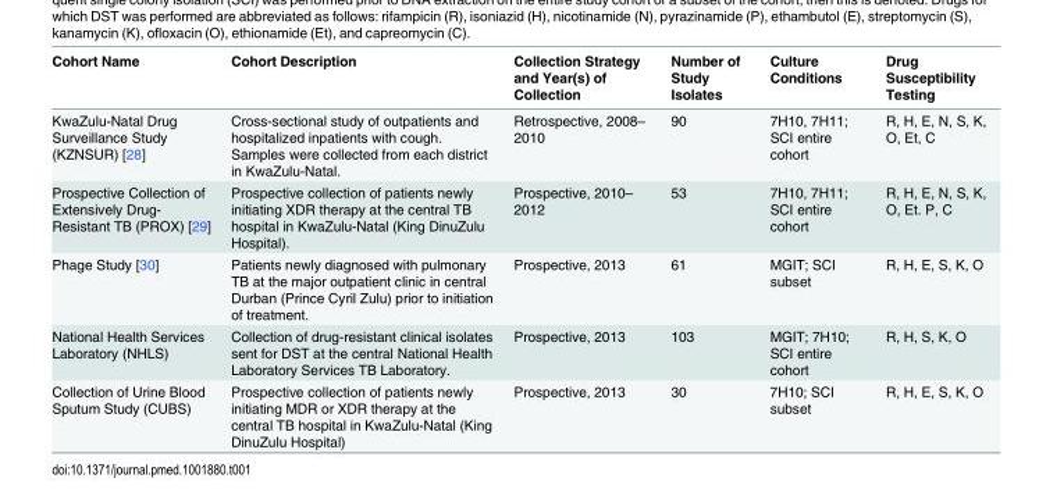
<table><thead><tr><td>Cohort Name</td><td>Cohort Description</td><td>Collection Strategy and Year(s) of Collection</td><td>Number of Study Isolates</td><td>Culture Conditions</td><td>Drug Susceptibility Testing</td></tr></thead><tbody><tr><td>KwaZulu-Natal Drug Surveillance Study (KZNSUR) [28]</td><td>Cross-sectional study of outpatients and hospitalized inpatients with cough. Samples were collected from each district in KwaZulu-Natal.</td><td>Retrospective, 2008– 2010</td><td>90</td><td>7H10, 7H11; SCI entire cohort</td><td>R, H, E, N, S, K, O, Et, C</td></tr><tr><td>Prospective Collection of Extensively Drug- Resistant TB (PROX) [29]</td><td>Prospective collection of patients newly initiating XDR therapy at the central TB hospital in KwaZulu-Natal (King DinuZulu Hospital).</td><td>Prospective, 2010– 2012</td><td>53</td><td>7H10, 7H11; SCI entire cohort</td><td>R, H, E, N, S, K, O, Et. P, C</td></tr><tr><td>Phage Study [30]</td><td>Patients newly diagnosed with pulmonary TB at the major outpatient clinic in central Durban (Prince Cyril Zulu) prior to initiation of treatment.</td><td>Prospective, 2013</td><td>61</td><td>MGIT; SCI subset</td><td>R, H, E, S, K, O</td></tr><tr><td>National Health Services Laboratory (NHLS)</td><td>Collection of drug-resistant clinical isolates sent for DST at the central National Health Laboratory Services TB Laboratory.</td><td>Prospective, 2013</td><td>103</td><td>MGIT; 7H10; SCI entire cohort</td><td>R, H, S, K, O</td></tr><tr><td>Collection of Urine Blood Sputum Study (CUBS)</td><td>Prospective collection of patients newly initiating MDR or XDR therapy at the central TB hospital in KwaZulu-Natal (King DinuZulu Hospital)</td><td>Prospective, 2013</td><td>30</td><td>7H10; SCI subset</td><td>R, H, E, S, K, O</td></tr></tbody></table>